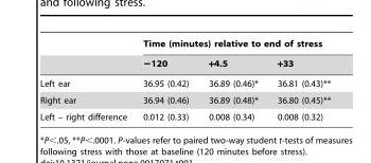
<table><thead><tr><td rowspan="2"></td><td colspan="3">Time (minutes) relative to end of stress</td></tr><tr><td>−120</td><td>+4.5</td><td>+33</td></tr></thead><tbody><tr><td>Left ear</td><td>36.95 (0.42)</td><td>36.89 (0.46)*</td><td>36.81 (0.43)**</td></tr><tr><td>Right ear</td><td>36.94 (0.46)</td><td>36.89 (0.48)*</td><td>36.80 (0.45)**</td></tr><tr><td>Left – right difference</td><td>0.012 (0.33)</td><td>0.008 (0.34)</td><td>0.008 (0.32)</td></tr></tbody></table>